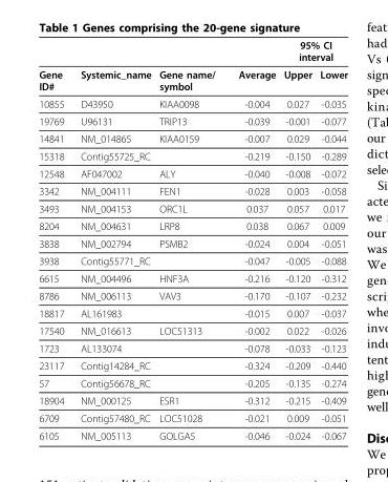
<table><thead><tr><td rowspan="2">Gene ID#</td><td rowspan="2">Systemic_name</td><td rowspan="2">Gene name/ symbol</td><td rowspan="2">Average</td><td colspan="2">95% CI interval</td></tr><tr><td>Upper</td><td>Lower</td></tr></thead><tbody><tr><td>10855</td><td>D43950</td><td>KIAA0098</td><td>-0.004</td><td>0.027</td><td>-0.035</td></tr><tr><td>19769</td><td>U96131</td><td>TRIP13</td><td>-0.039</td><td>-0.001</td><td>-0.077</td></tr><tr><td>14841</td><td>NM_014865</td><td>KIAA0159</td><td>-0.007</td><td>0.029</td><td>-0.044</td></tr><tr><td>15318</td><td>Contig55725_RC</td><td></td><td>-0.219</td><td>-0.150</td><td>-0.289</td></tr><tr><td>12548</td><td>AF047002</td><td>ALY</td><td>-0.040</td><td>-0.008</td><td>-0.072</td></tr><tr><td>3342</td><td>NM_004111</td><td>FEN1</td><td>-0.028</td><td>0.003</td><td>-0.058</td></tr><tr><td>3493</td><td>NM_004153</td><td>ORC1L</td><td>0.037</td><td>0.057</td><td>0.017</td></tr><tr><td>8204</td><td>NM_004631</td><td>LRP8</td><td>0.038</td><td>0.067</td><td>0.009</td></tr><tr><td>3838</td><td>NM_002794</td><td>PSMB2</td><td>-0.024</td><td>0.004</td><td>-0.051</td></tr><tr><td>3938</td><td>Contig55771_RC</td><td></td><td>-0.047</td><td>-0.005</td><td>-0.088</td></tr><tr><td>6615</td><td>NM_004496</td><td>HNF3A</td><td>-0.216</td><td>-0.120</td><td>-0.312</td></tr><tr><td>8786</td><td>NM_006113</td><td>VAV3</td><td>-0.170</td><td>-0.107</td><td>-0.232</td></tr><tr><td>18817</td><td>AL161983</td><td></td><td>-0.015</td><td>0.007</td><td>-0.037</td></tr><tr><td>17540</td><td>NM_016613</td><td>LOC51313</td><td>-0.002</td><td>0.022</td><td>-0.026</td></tr><tr><td>1723</td><td>AL133074</td><td></td><td>-0.078</td><td>-0.033</td><td>-0.123</td></tr><tr><td>23117</td><td>Contig14284_RC</td><td></td><td>-0.324</td><td>-0.209</td><td>-0.440</td></tr><tr><td>57</td><td>Contig56678_RC</td><td></td><td>-0.205</td><td>-0.135</td><td>-0.274</td></tr><tr><td>18904</td><td>NM_000125</td><td>ESR1</td><td>-0.312</td><td>-0.215</td><td>-0.409</td></tr><tr><td>6709</td><td>Contig57480_RC</td><td>LOC51028</td><td>-0.021</td><td>0.009</td><td>-0.051</td></tr><tr><td>6105</td><td>NM_005113</td><td>GOLGA5</td><td>-0.046</td><td>-0.024</td><td>-0.067</td></tr></tbody></table>